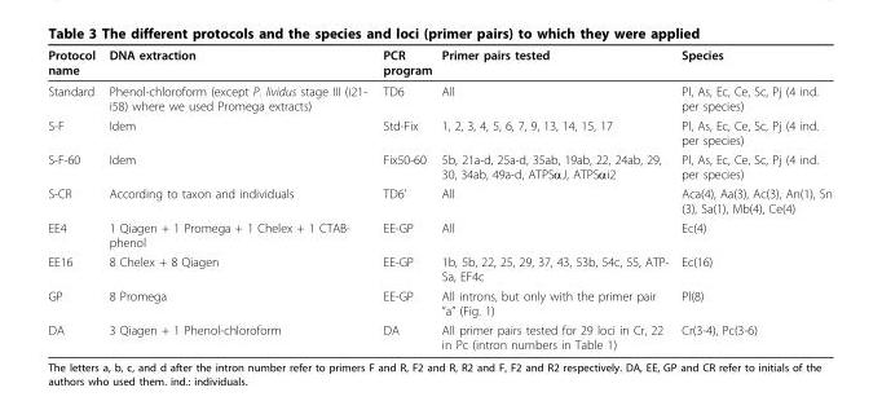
<table><thead><tr><td>Protocol name</td><td>DNA extraction</td><td>PCR program</td><td>Primer pairs tested</td><td>Species</td></tr></thead><tbody><tr><td>Standard</td><td>Phenol-chloroform (except P. lividus stage III (i21- i58) where we used Promega extracts)</td><td>TD6</td><td>All</td><td>Pl, As, Ec, Ce, Sc, Pj (4 ind. per species)</td></tr><tr><td>S-F</td><td>Idem</td><td>Std-Fix</td><td>1, 2, 3, 4, 5, 6, 7, 9, 13, 14, 15, 17</td><td>Pl, As, Ec, Ce, Sc, Pj (4 ind. per species)</td></tr><tr><td>S-F-60</td><td>Idem</td><td>Fix50-60</td><td>5b, 21a-d, 25a-d, 35ab, 19ab, 22, 24ab, 29, 30, 34ab, 49a-d, ATPSαJ, ATPSαi2</td><td>Pl, As, Ec, Ce, Sc, Pj (4 ind. per species)</td></tr><tr><td>S-CR</td><td>According to taxon and individuals</td><td>TD6’</td><td>All</td><td>Aca(4), Aa(3), Ac(3), An(1), Sn (3), Sa(1), Mb(4), Ce(4)</td></tr><tr><td>EE4</td><td>1 Qiagen + 1 Promega + 1 Chelex + 1 CTAB- phenol</td><td>EE-GP</td><td>All</td><td>Ec(4)</td></tr><tr><td>EE16</td><td>8 Chelex + 8 Qiagen</td><td>EE-GP</td><td>1b, 5b, 22, 25, 29, 37, 43, 53b, 54c, 55, ATP- Sa, EF4c</td><td>Ec(16)</td></tr><tr><td>GP</td><td>8 Promega</td><td>EE-GP</td><td>All introns, but only with the primer pair “a” (Fig. 1)</td><td>Pl(8)</td></tr><tr><td>DA</td><td>3 Qiagen + 1 Phenol-chloroform</td><td>DA</td><td>All primer pairs tested for 29 loci in Cr, 22 in Pc (intron numbers in Table 1)</td><td>Cr(3-4), Pc(3-6)</td></tr></tbody></table>